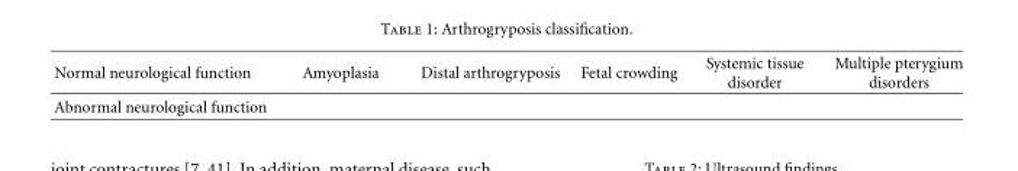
<table><thead><tr><td>Normal neurological function</td><td>Amyoplasia</td><td>Distal arthrogryposis</td><td>Fetal crowding</td><td>Systemic tissue disorder</td><td>Multiple pterygium disorders</td></tr></thead><tbody><tr><td>Abnormal neurological function</td><td></td><td></td><td></td><td></td><td></td></tr></tbody></table>